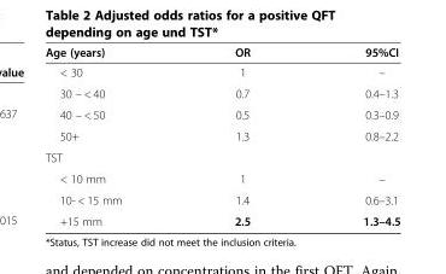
<table><thead><tr><td>Age (years)</td><td>OR</td><td>95%CI</td></tr></thead><tbody><tr><td>&lt; 30</td><td>1</td><td>–</td></tr><tr><td>30 – &lt; 40</td><td>0.7</td><td>0.4–1.3</td></tr><tr><td>40 – &lt; 50</td><td>0.5</td><td>0.3–0.9</td></tr><tr><td>50+</td><td>1.3</td><td>0.8–2.2</td></tr><tr><td colspan="3">TST</td></tr><tr><td>&lt; 10 mm</td><td>1</td><td>–</td></tr><tr><td>10- &lt; 15 mm</td><td>1.4</td><td>0.6–3.1</td></tr><tr><td>+15 mm</td><td>2.5</td><td>1.3–4.5</td></tr></tbody></table>